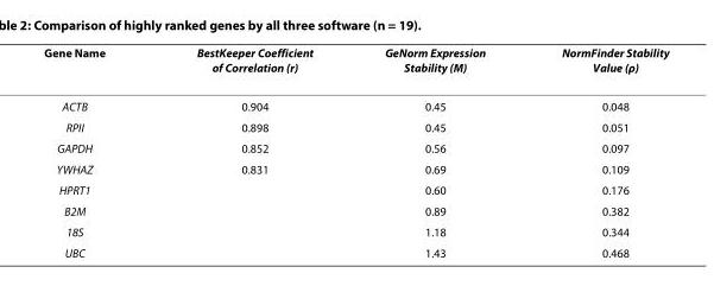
<table><thead><tr><td>Gene Name</td><td>BestKeeper Coefficient of Correlation (r)</td><td>GeNorm Expression Stability (M)</td><td>NormFinder Stability Value (ρ)</td></tr></thead><tbody><tr><td>ACTB</td><td>0.904</td><td>0.45</td><td>0.048</td></tr><tr><td>RPII</td><td>0.898</td><td>0.45</td><td>0.051</td></tr><tr><td>GAPDH</td><td>0.852</td><td>0.56</td><td>0.097</td></tr><tr><td>YWHAZ</td><td>0.831</td><td>0.69</td><td>0.109</td></tr><tr><td>HPRT1</td><td></td><td>0.60</td><td>0.176</td></tr><tr><td>B2M</td><td></td><td>0.89</td><td>0.382</td></tr><tr><td>18S</td><td></td><td>1.18</td><td>0.344</td></tr><tr><td>UBC</td><td></td><td>1.43</td><td>0.468</td></tr></tbody></table>